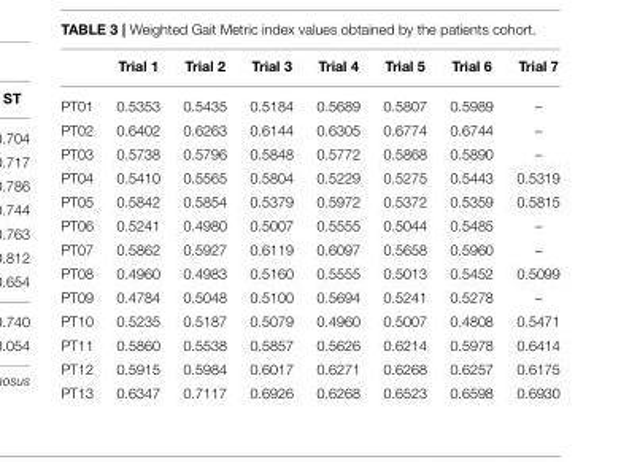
<table><thead><tr><td></td><td>Trial 1</td><td>Trial 2</td><td>Trial 3</td><td>Trial 4</td><td>Trial 5</td><td>Trial 6</td><td>Trial 7</td></tr></thead><tbody><tr><td>PT01</td><td>0.5353</td><td>0.5435</td><td>0.5184</td><td>0.5689</td><td>0.5807</td><td>0.5989</td><td>–</td></tr><tr><td>PT02</td><td>0.6402</td><td>0.6263</td><td>0.6144</td><td>0.6305</td><td>0.6774</td><td>0.6744</td><td>–</td></tr><tr><td>PT03</td><td>0.5738</td><td>0.5796</td><td>0.5848</td><td>0.5772</td><td>0.5868</td><td>0.5890</td><td>–</td></tr><tr><td>PT04</td><td>0.5410</td><td>0.5565</td><td>0.5804</td><td>0.5229</td><td>0.5275</td><td>0.5443</td><td>0.5319</td></tr><tr><td>PT05</td><td>0.5842</td><td>0.5854</td><td>0.5379</td><td>0.5972</td><td>0.5372</td><td>0.5359</td><td>0.5815</td></tr><tr><td>PT06</td><td>0.5241</td><td>0.4980</td><td>0.5007</td><td>0.5555</td><td>0.5044</td><td>0.5485</td><td>–</td></tr><tr><td>PT07</td><td>0.5862</td><td>0.5927</td><td>0.6119</td><td>0.6097</td><td>0.5658</td><td>0.5960</td><td>–</td></tr><tr><td>PT08</td><td>0.4960</td><td>0.4983</td><td>0.5160</td><td>0.5555</td><td>0.5013</td><td>0.5452</td><td>0.5099</td></tr><tr><td>PT09</td><td>0.4784</td><td>0.5048</td><td>0.5100</td><td>0.5694</td><td>0.5241</td><td>0.5278</td><td>–</td></tr><tr><td>PT10</td><td>0.5235</td><td>0.5187</td><td>0.5079</td><td>0.4960</td><td>0.5007</td><td>0.4808</td><td>0.5471</td></tr><tr><td>PT11</td><td>0.5860</td><td>0.5538</td><td>0.5857</td><td>0.5626</td><td>0.6214</td><td>0.5978</td><td>0.6414</td></tr><tr><td>PT12</td><td>0.5915</td><td>0.5984</td><td>0.6017</td><td>0.6271</td><td>0.6268</td><td>0.6257</td><td>0.6175</td></tr><tr><td>PT13</td><td>0.6347</td><td>0.7117</td><td>0.6926</td><td>0.6268</td><td>0.6523</td><td>0.6598</td><td>0.6930</td></tr></tbody></table>